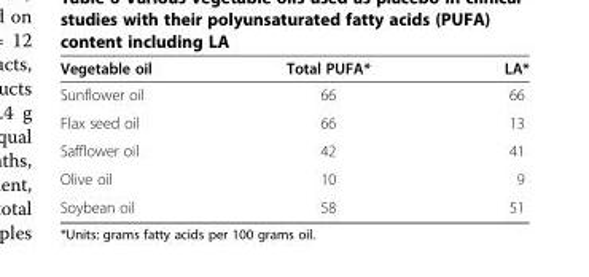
<table><thead><tr><td>Vegetable oil</td><td>Total PUFA*</td><td>LA*</td></tr></thead><tbody><tr><td>Sunflower oil</td><td>66</td><td>66</td></tr><tr><td>Flax seed oil</td><td>66</td><td>13</td></tr><tr><td>Safflower oil</td><td>42</td><td>41</td></tr><tr><td>Olive oil</td><td>10</td><td>9</td></tr><tr><td>Soybean oil</td><td>58</td><td>51</td></tr></tbody></table>